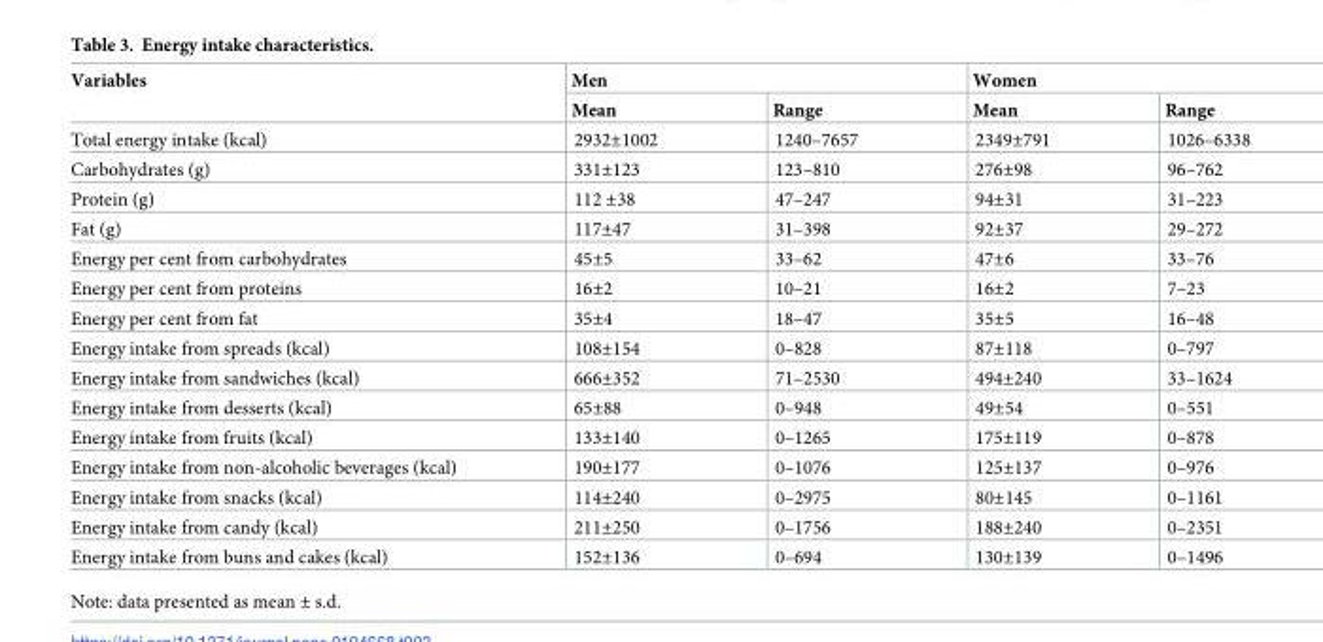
<table><thead><tr><td rowspan="2">Variables</td><td colspan="2">Men</td><td colspan="2">Women</td></tr><tr><td>Mean</td><td>Range</td><td>Mean</td><td>Range</td></tr></thead><tbody><tr><td>Total energy intake (kcal)</td><td>2932±1002</td><td>1240–7657</td><td>2349±791</td><td>1026–6338</td></tr><tr><td>Carbohydrates (g)</td><td>331±123</td><td>123–810</td><td>276±98</td><td>96–762</td></tr><tr><td>Protein (g)</td><td>112 ±38</td><td>47–247</td><td>94±31</td><td>31–223</td></tr><tr><td>Fat (g)</td><td>117±47</td><td>31–398</td><td>92±37</td><td>29–272</td></tr><tr><td>Energy per cent from carbohydrates</td><td>45±5</td><td>33–62</td><td>47±6</td><td>33–76</td></tr><tr><td>Energy per cent from proteins</td><td>16±2</td><td>10–21</td><td>16±2</td><td>7–23</td></tr><tr><td>Energy per cent from fat</td><td>35±4</td><td>18–47</td><td>35±5</td><td>16–48</td></tr><tr><td>Energy intake from spreads (kcal)</td><td>108±154</td><td>0–828</td><td>87±118</td><td>0–797</td></tr><tr><td>Energy intake from sandwiches (kcal)</td><td>666±352</td><td>71–2530</td><td>494±240</td><td>33–1624</td></tr><tr><td>Energy intake from desserts (kcal)</td><td>65±88</td><td>0–948</td><td>49±54</td><td>0–551</td></tr><tr><td>Energy intake from fruits (kcal)</td><td>133±140</td><td>0–1265</td><td>175±119</td><td>0–878</td></tr><tr><td>Energy intake from non-alcoholic beverages (kcal)</td><td>190±177</td><td>0–1076</td><td>125±137</td><td>0–976</td></tr><tr><td>Energy intake from snacks (kcal)</td><td>114±240</td><td>0–2975</td><td>80±145</td><td>0–1161</td></tr><tr><td>Energy intake from candy (kcal)</td><td>211±250</td><td>0–1756</td><td>188±240</td><td>0–2351</td></tr><tr><td>Energy intake from buns and cakes (kcal)</td><td>152±136</td><td>0–694</td><td>130±139</td><td>0–1496</td></tr></tbody></table>